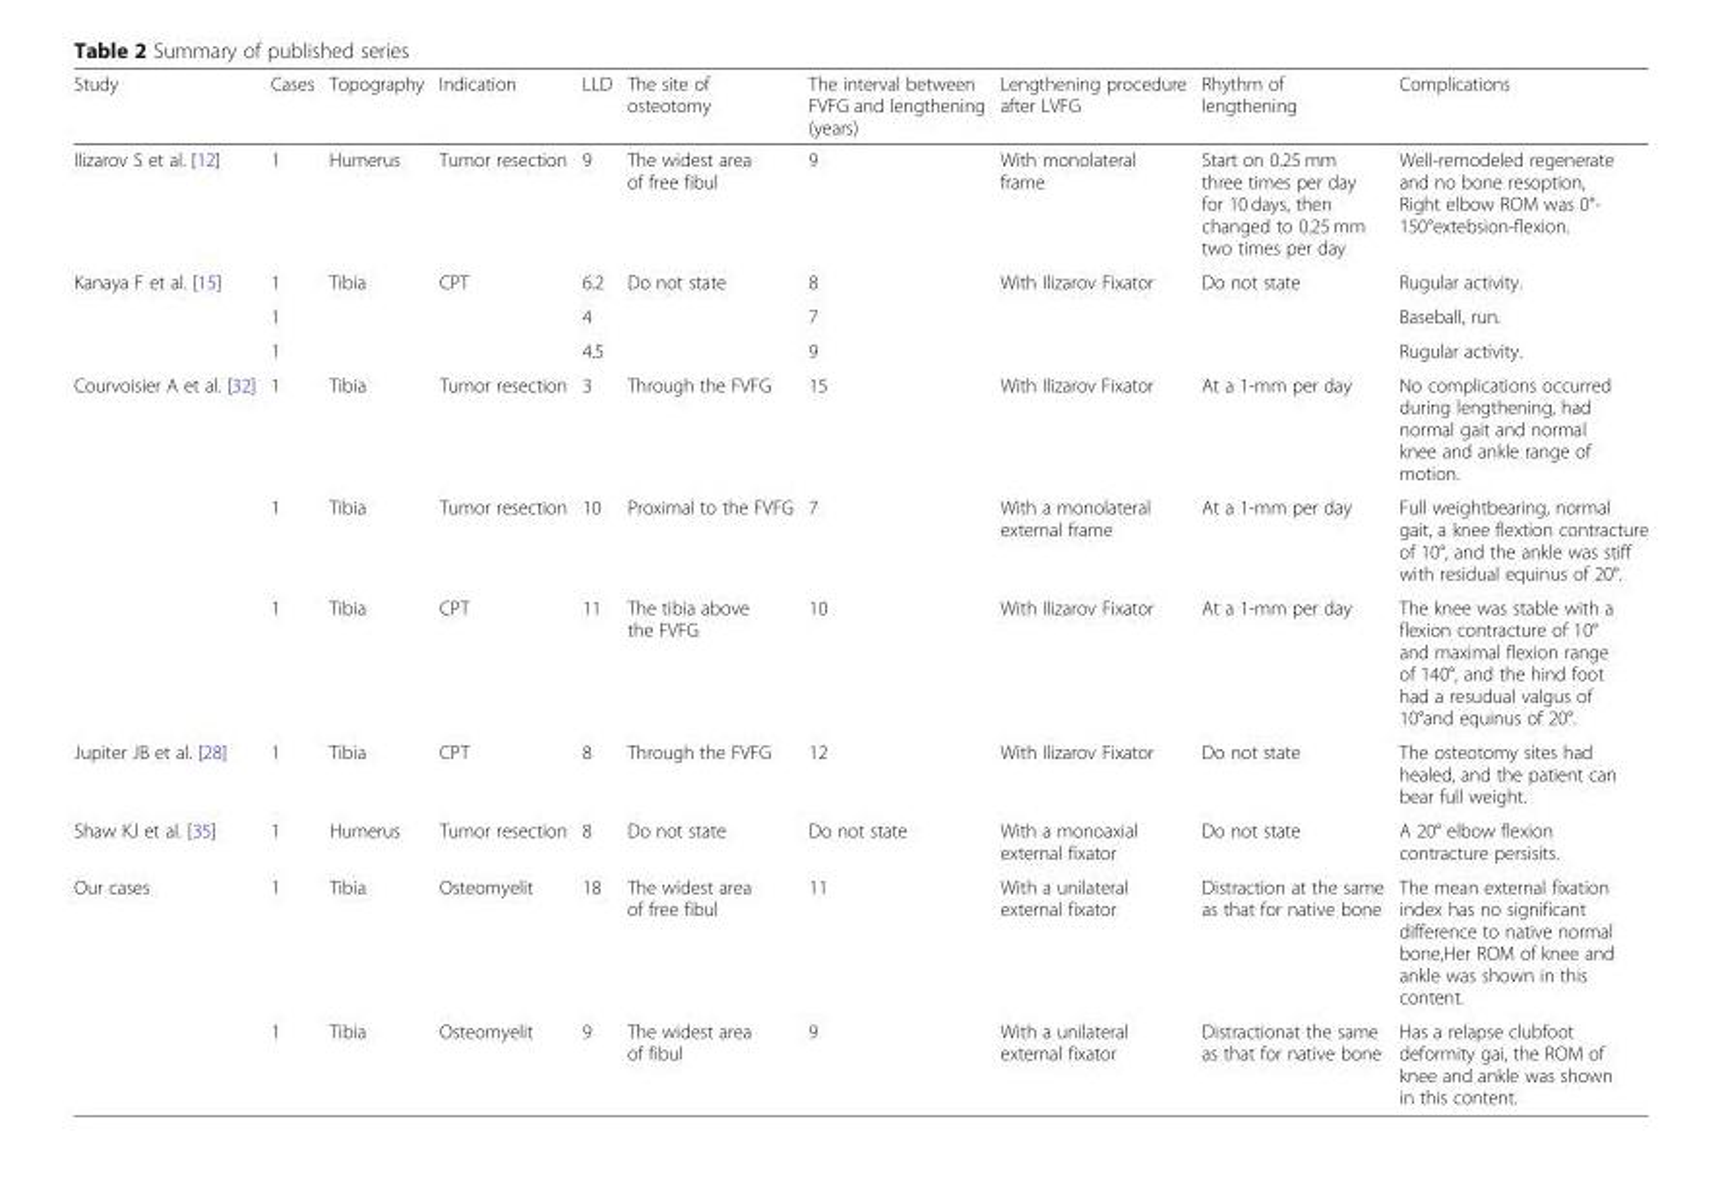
<table><thead><tr><td>Study</td><td>Cases</td><td>Topography</td><td>Indication</td><td>LLD</td><td>The site of osteotomy</td><td>The interval between FVFG and lengthening (years)</td><td>Lengthening procedure after LVFG</td><td>Rhythm of lengthening</td><td>Complications</td></tr></thead><tbody><tr><td>Ilizarov S et al. [12]</td><td>1</td><td>Humerus</td><td>Tumor resection</td><td>9</td><td>The widest area of free fibul</td><td>9</td><td>With monolateral frame</td><td>Start on 0.25 mm three times per day for 10 days, then changed to 0.25 mm two times per day</td><td>Well-remodeled regenerate and no bone resoption, Right elbow ROM was 0°- 150°extebsion-flexion.</td></tr><tr><td rowspan="3">Kanaya F et al. [15]</td><td>1</td><td rowspan="3">Tibia</td><td rowspan="3">CPT</td><td>6.2</td><td rowspan="3">Do not state</td><td>8</td><td rowspan="3">With Ilizarov Fixator</td><td rowspan="3">Do not state</td><td>Rugular activity.</td></tr><tr><td>1</td><td>4</td><td>7</td><td>Baseball, run.</td></tr><tr><td>1</td><td>4.5</td><td>9</td><td>Rugular activity.</td></tr><tr><td rowspan="3">Courvoisier A et al. [32]</td><td>1</td><td>Tibia</td><td>Tumor resection</td><td>3</td><td>Through the FVFG</td><td>15</td><td>With Ilizarov Fixator</td><td>At a 1-mm per day</td><td>No complications occurred during lengthening, had normal gait and normal knee and ankle range of motion.</td></tr><tr><td>1</td><td>Tibia</td><td>Tumor resection</td><td>10</td><td>Proximal to the FVFG</td><td>7</td><td>With a monolateral external frame</td><td>At a 1-mm per day</td><td>Full weightbearing, normal gait, a knee flextion contracture of 10°, and the ankle was stiff with residual equinus of 20°.</td></tr><tr><td>1</td><td>Tibia</td><td>CPT</td><td>11</td><td>The tibia above the FVFG</td><td>10</td><td>With Ilizarov Fixator</td><td>At a 1-mm per day</td><td>The knee was stable with a flexion contracture of 10° and maximal flexion range of 140°, and the hind foot had a resudual valgus of 10°and equinus of 20°.</td></tr><tr><td>Jupiter JB et al. [28]</td><td>1</td><td>Tibia</td><td>CPT</td><td>8</td><td>Through the FVFG</td><td>12</td><td>With Ilizarov Fixator</td><td>Do not state</td><td>The osteotomy sites had healed, and the patient can bear full weight.</td></tr><tr><td>Shaw KJ et al. [35]</td><td>1</td><td>Humerus</td><td>Tumor resection</td><td>8</td><td>Do not state</td><td>Do not state</td><td>With a monoaxial external fixator</td><td>Do not state</td><td>A 20° elbow flexion contracture persisits.</td></tr><tr><td rowspan="2">Our cases</td><td>1</td><td>Tibia</td><td>Osteomyelit</td><td>18</td><td>The widest area of free fibul</td><td>11</td><td>With a unilateral external fixator</td><td>Distraction at the same as that for native bone</td><td>The mean external fixation index has no significant difference to native normal bone,Her ROM of knee and ankle was shown in this content.</td></tr><tr><td>1</td><td>Tibia</td><td>Osteomyelit</td><td>9</td><td>The widest area of fibul</td><td>9</td><td>With a unilateral external fixator</td><td>Distractionat the same as that for native bone</td><td>Has a relapse clubfoot deformity gai, the ROM of knee and ankle was shown in this content.</td></tr></tbody></table>